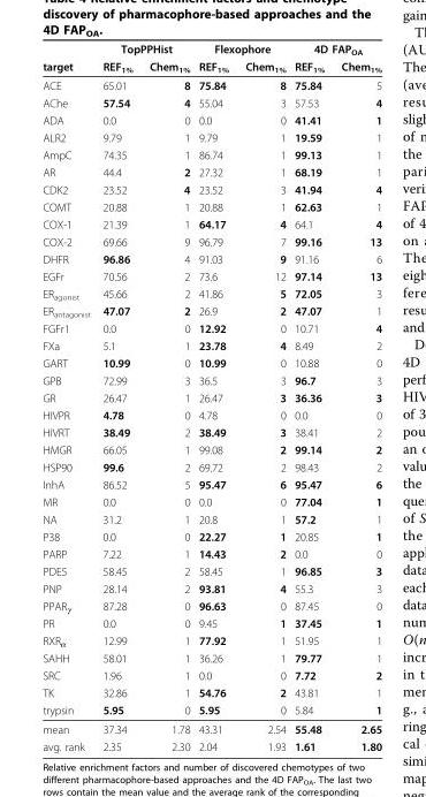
<table><thead><tr><td rowspan="2">target</td><td colspan="2">TopPPHist</td><td colspan="2">Flexophore</td><td colspan="2">4D FAP<sub>OA</sub></td></tr><tr><td>REF<sub>1%</sub></td><td>Chem<sub>1%</sub></td><td>REF<sub>1%</sub></td><td>Chem<sub>1%</sub></td><td>REF<sub>1%</sub></td><td>Chem<sub>1%</sub></td></tr></thead><tbody><tr><td>ACE</td><td>65.01</td><td>8</td><td>75.84</td><td>8</td><td>75.84</td><td>5</td></tr><tr><td>AChe</td><td>57.54</td><td>4</td><td>55.04</td><td>3</td><td>57.53</td><td>4</td></tr><tr><td>ADA</td><td>0.0</td><td>0</td><td>0.0</td><td>0</td><td>41.41</td><td>1</td></tr><tr><td>ALR2</td><td>9.79</td><td>1</td><td>9.79</td><td>1</td><td>19.59</td><td>1</td></tr><tr><td>AmpC</td><td>74.35</td><td>1</td><td>86.74</td><td>1</td><td>99.13</td><td>1</td></tr><tr><td>AR</td><td>44.4</td><td>2</td><td>27.32</td><td>1</td><td>68.19</td><td>1</td></tr><tr><td>CDK2</td><td>23.52</td><td>4</td><td>23.52</td><td>3</td><td>41.94</td><td>4</td></tr><tr><td>COMT</td><td>20.88</td><td>1</td><td>20.88</td><td>1</td><td>62.63</td><td>1</td></tr><tr><td>COX-1</td><td>21.39</td><td>1</td><td>64.17</td><td>4</td><td>64.1</td><td>4</td></tr><tr><td>COX-2</td><td>69.66</td><td>9</td><td>96.79</td><td>7</td><td>99.16</td><td>13</td></tr><tr><td>DHFR</td><td>96.86</td><td>4</td><td>91.03</td><td>9</td><td>91.16</td><td>6</td></tr><tr><td>EGFr</td><td>70.56</td><td>2</td><td>73.6</td><td>12</td><td>97.14</td><td>13</td></tr><tr><td>ER<sub>agonist</sub></td><td>45.66</td><td>2</td><td>41.86</td><td>5</td><td>72.05</td><td>3</td></tr><tr><td>ER<sub>antagonist</sub></td><td>47.07</td><td>2</td><td>26.9</td><td>2</td><td>47.07</td><td>1</td></tr><tr><td>FGFr1</td><td>0.0</td><td>0</td><td>12.92</td><td>0</td><td>10.71</td><td>4</td></tr><tr><td>FXa</td><td>5.1</td><td>1</td><td>23.78</td><td>4</td><td>8.49</td><td>2</td></tr><tr><td>GART</td><td>10.99</td><td>0</td><td>10.99</td><td>0</td><td>10.88</td><td>0</td></tr><tr><td>GPB</td><td>72.99</td><td>3</td><td>36.5</td><td>3</td><td>96.7</td><td>3</td></tr><tr><td>GR</td><td>26.47</td><td>1</td><td>26.47</td><td>3</td><td>36.36</td><td>3</td></tr><tr><td>HIVPR</td><td>4.78</td><td>0</td><td>4.78</td><td>0</td><td>0.0</td><td>0</td></tr><tr><td>HIVRT</td><td>38.49</td><td>2</td><td>38.49</td><td>3</td><td>38.41</td><td>2</td></tr><tr><td>HMGR</td><td>66.05</td><td>1</td><td>99.08</td><td>2</td><td>99.14</td><td>2</td></tr><tr><td>HSP90</td><td>99.6</td><td>2</td><td>69.72</td><td>2</td><td>98.43</td><td>2</td></tr><tr><td>InhA</td><td>86.52</td><td>5</td><td>95.47</td><td>6</td><td>95.47</td><td>6</td></tr><tr><td>MR</td><td>0.0</td><td>0</td><td>0.0</td><td>0</td><td>77.04</td><td>1</td></tr><tr><td>NA</td><td>31.2</td><td>1</td><td>20.8</td><td>1</td><td>57.2</td><td>1</td></tr><tr><td>P38</td><td>0.0</td><td>0</td><td>22.27</td><td>1</td><td>20.85</td><td>1</td></tr><tr><td>PARP</td><td>7.22</td><td>1</td><td>14.43</td><td>2</td><td>0.0</td><td>0</td></tr><tr><td>PDE5</td><td>58.45</td><td>2</td><td>58.45</td><td>1</td><td>96.85</td><td>3</td></tr><tr><td>PNP</td><td>28.14</td><td>2</td><td>93.81</td><td>4</td><td>55.3</td><td>3</td></tr><tr><td>PPAR<sub>γ</sub></td><td>87.28</td><td>0</td><td>96.63</td><td>0</td><td>87.45</td><td>0</td></tr><tr><td>PR</td><td>0.0</td><td>0</td><td>9.45</td><td>1</td><td>37.45</td><td>1</td></tr><tr><td>RXR<sub>α</sub></td><td>12.99</td><td>1</td><td>77.92</td><td>1</td><td>51.95</td><td>1</td></tr><tr><td>SAHH</td><td>58.01</td><td>1</td><td>36.26</td><td>1</td><td>79.77</td><td>1</td></tr><tr><td>SRC</td><td>1.96</td><td>1</td><td>0.0</td><td>0</td><td>7.72</td><td>2</td></tr><tr><td>TK</td><td>32.86</td><td>1</td><td>54.76</td><td>2</td><td>43.81</td><td>1</td></tr><tr><td>trypsin</td><td>5.95</td><td>0</td><td>5.95</td><td>0</td><td>5.84</td><td>1</td></tr><tr><td>mean</td><td>37.34</td><td>1.78</td><td>43.31</td><td>2.54</td><td>55.48</td><td>2.65</td></tr><tr><td>avg. rank</td><td>2.35</td><td>2.30</td><td>2.04</td><td>1.93</td><td>1.61</td><td>1.80</td></tr></tbody></table>